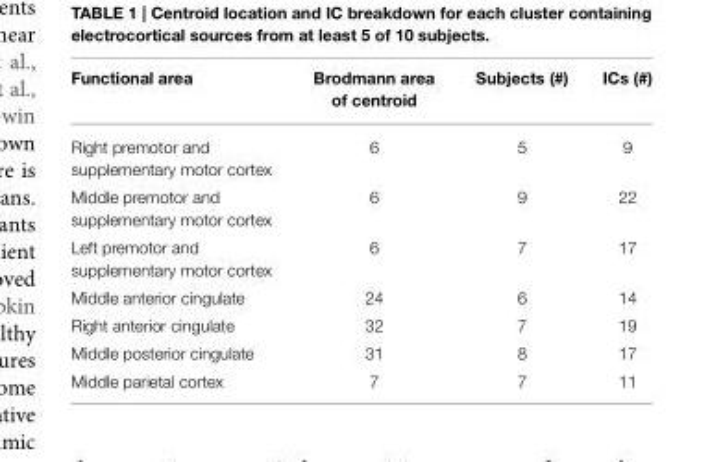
<table><thead><tr><td>Functional area</td><td>Brodmann area of centroid</td><td>Subjects (#)</td><td>ICs (#)</td></tr></thead><tbody><tr><td>Right premotor and supplementary motor cortex</td><td>6</td><td>5</td><td>9</td></tr><tr><td>Middle premotor and supplementary motor cortex</td><td>6</td><td>9</td><td>22</td></tr><tr><td>Left premotor and supplementary motor cortex</td><td>6</td><td>7</td><td>17</td></tr><tr><td>Middle anterior cingulate</td><td>24</td><td>6</td><td>14</td></tr><tr><td>Right anterior cingulate</td><td>32</td><td>7</td><td>19</td></tr><tr><td>Middle posterior cingulate</td><td>31</td><td>8</td><td>17</td></tr><tr><td>Middle parietal cortex</td><td>7</td><td>7</td><td>11</td></tr></tbody></table>